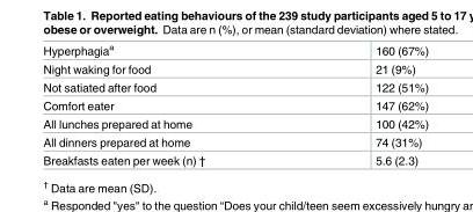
<table><tbody><tr><td>Hyperphagia<sup>a</sup></td><td>160 (67%)</td></tr><tr><td>Night waking for food</td><td>21 (9%)</td></tr><tr><td>Not satiated after food</td><td>122 (51%)</td></tr><tr><td>Comfort eater</td><td>147 (62%)</td></tr><tr><td>All lunches prepared at home</td><td>100 (42%)</td></tr><tr><td>All dinners prepared at home</td><td>74 (31%)</td></tr><tr><td>Breakfasts eaten per week (n) †</td><td>5.6 (2.3)</td></tr></tbody></table>